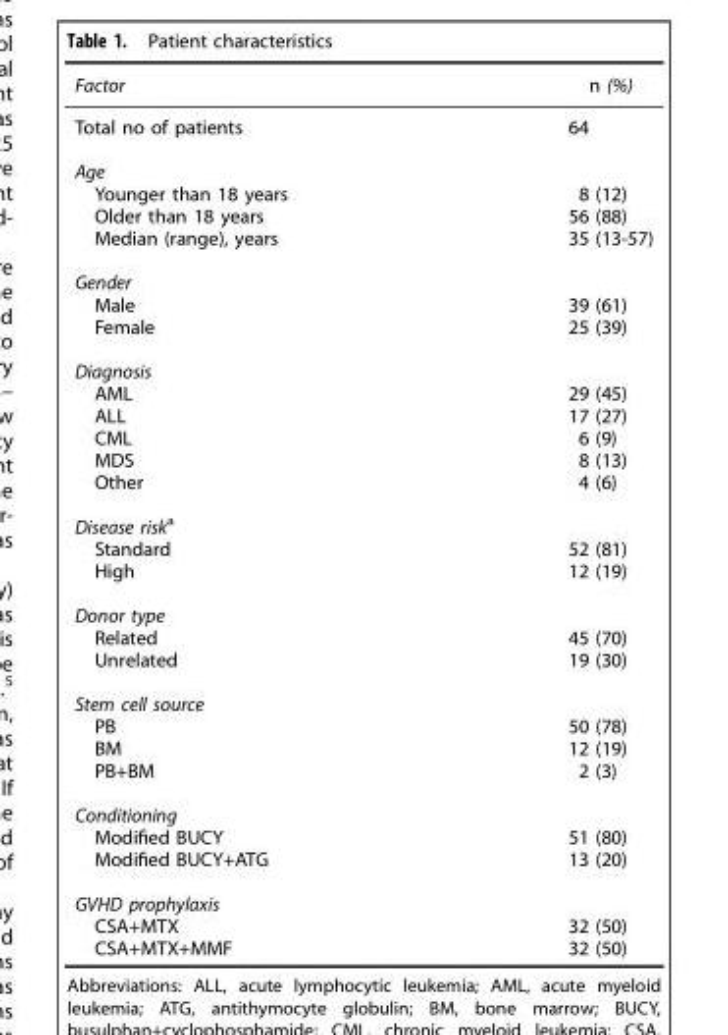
<table><thead><tr><td>Factor</td><td>n (%)</td></tr></thead><tbody><tr><td>Total no of patients</td><td>64</td></tr><tr><td colspan="2">Age</td></tr><tr><td>Younger than 18 years</td><td>8 (12)</td></tr><tr><td>Older than 18 years</td><td>56 (88)</td></tr><tr><td>Median (range), years</td><td>35 (13-57)</td></tr><tr><td colspan="2">Gender</td></tr><tr><td>Male</td><td>39 (61)</td></tr><tr><td>Female</td><td>25 (39)</td></tr><tr><td colspan="2">Diagnosis</td></tr><tr><td>AML</td><td>29 (45)</td></tr><tr><td>ALL</td><td>17 (27)</td></tr><tr><td>CML</td><td>6 (9)</td></tr><tr><td>MDS</td><td>8 (13)</td></tr><tr><td>Other</td><td>4 (6)</td></tr><tr><td colspan="2">Disease risk<sup>a</sup></td></tr><tr><td>Standard</td><td>52 (81)</td></tr><tr><td>High</td><td>12 (19)</td></tr><tr><td colspan="2">Donor type</td></tr><tr><td>Related</td><td>45 (70)</td></tr><tr><td>Unrelated</td><td>19 (30)</td></tr><tr><td colspan="2">Stem cell source</td></tr><tr><td>PB</td><td>50 (78)</td></tr><tr><td>BM</td><td>12 (19)</td></tr><tr><td>PB+BM</td><td>2 (3)</td></tr><tr><td colspan="2">Conditioning</td></tr><tr><td>Modified BUCY</td><td>51 (80)</td></tr><tr><td>Modified BUCY+ATG</td><td>13 (20)</td></tr><tr><td colspan="2">GVHD prophylaxis</td></tr><tr><td>CSA+MTX</td><td>32 (50)</td></tr><tr><td>CSA+MTX+MMF</td><td>32 (50)</td></tr></tbody></table>